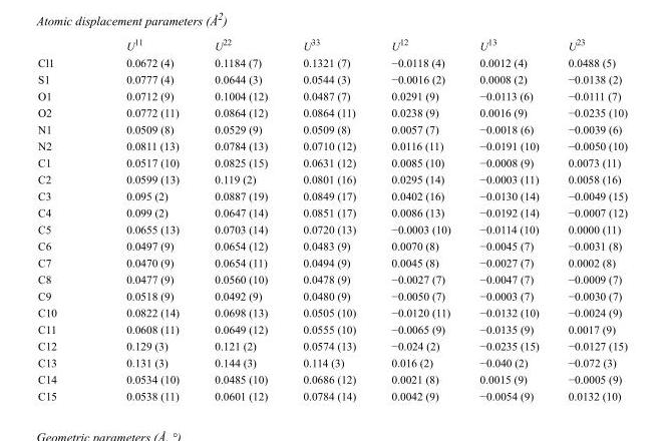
<table><thead><tr><td></td><td>U<sup>11</sup></td><td>U<sup>22</sup></td><td>U<sup>33</sup></td><td>U<sup>12</sup></td><td>U<sup>13</sup></td><td>U<sup>23</sup></td></tr></thead><tbody><tr><td>Cl1</td><td>0.0672 (4)</td><td>0.1184 (7)</td><td>0.1321 (7)</td><td>−0.0118 (4)</td><td>0.0012 (4)</td><td>0.0488 (5)</td></tr><tr><td>S1</td><td>0.0777 (4)</td><td>0.0644 (3)</td><td>0.0544 (3)</td><td>−0.0016 (2)</td><td>0.0008 (2)</td><td>−0.0138 (2)</td></tr><tr><td>O1</td><td>0.0712 (9)</td><td>0.1004 (12)</td><td>0.0487 (7)</td><td>0.0291 (9)</td><td>−0.0113 (6)</td><td>−0.0111 (7)</td></tr><tr><td>O2</td><td>0.0772 (11)</td><td>0.0864 (12)</td><td>0.0864 (11)</td><td>0.0238 (9)</td><td>0.0016 (9)</td><td>−0.0235 (10)</td></tr><tr><td>N1</td><td>0.0509 (8)</td><td>0.0529 (9)</td><td>0.0509 (8)</td><td>0.0057 (7)</td><td>−0.0018 (6)</td><td>−0.0039 (6)</td></tr><tr><td>N2</td><td>0.0811 (13)</td><td>0.0784 (13)</td><td>0.0710 (12)</td><td>0.0116 (11)</td><td>−0.0191 (10)</td><td>−0.0050 (10)</td></tr><tr><td>C1</td><td>0.0517 (10)</td><td>0.0825 (15)</td><td>0.0631 (12)</td><td>0.0085 (10)</td><td>−0.0008 (9)</td><td>0.0073 (11)</td></tr><tr><td>C2</td><td>0.0599 (13)</td><td>0.119 (2)</td><td>0.0801 (16)</td><td>0.0295 (14)</td><td>−0.0003 (11)</td><td>0.0058 (16)</td></tr><tr><td>C3</td><td>0.095 (2)</td><td>0.0887 (19)</td><td>0.0849 (17)</td><td>0.0402 (16)</td><td>−0.0130 (14)</td><td>−0.0049 (15)</td></tr><tr><td>C4</td><td>0.099 (2)</td><td>0.0647 (14)</td><td>0.0851 (17)</td><td>0.0086 (13)</td><td>−0.0192 (14)</td><td>−0.0007 (12)</td></tr><tr><td>C5</td><td>0.0655 (13)</td><td>0.0703 (14)</td><td>0.0720 (13)</td><td>−0.0003 (10)</td><td>−0.0114 (10)</td><td>0.0000 (11)</td></tr><tr><td>C6</td><td>0.0497 (9)</td><td>0.0654 (12)</td><td>0.0483 (9)</td><td>0.0070 (8)</td><td>−0.0045 (7)</td><td>−0.0031 (8)</td></tr><tr><td>C7</td><td>0.0470 (9)</td><td>0.0654 (11)</td><td>0.0494 (9)</td><td>0.0045 (8)</td><td>−0.0027 (7)</td><td>0.0002 (8)</td></tr><tr><td>C8</td><td>0.0477 (9)</td><td>0.0560 (10)</td><td>0.0478 (9)</td><td>−0.0027 (7)</td><td>−0.0047 (7)</td><td>−0.0009 (7)</td></tr><tr><td>C9</td><td>0.0518 (9)</td><td>0.0492 (9)</td><td>0.0480 (9)</td><td>−0.0050 (7)</td><td>−0.0003 (7)</td><td>−0.0030 (7)</td></tr><tr><td>C10</td><td>0.0822 (14)</td><td>0.0698 (13)</td><td>0.0505 (10)</td><td>−0.0120 (11)</td><td>−0.0132 (10)</td><td>−0.0024 (9)</td></tr><tr><td>C11</td><td>0.0608 (11)</td><td>0.0649 (12)</td><td>0.0555 (10)</td><td>−0.0065 (9)</td><td>−0.0135 (9)</td><td>0.0017 (9)</td></tr><tr><td>C12</td><td>0.129 (3)</td><td>0.121 (2)</td><td>0.0574 (13)</td><td>−0.024 (2)</td><td>−0.0235 (15)</td><td>−0.0127 (15)</td></tr><tr><td>C13</td><td>0.131 (3)</td><td>0.144 (3)</td><td>0.114 (3)</td><td>0.016 (2)</td><td>−0.040 (2)</td><td>−0.072 (3)</td></tr><tr><td>C14</td><td>0.0534 (10)</td><td>0.0485 (10)</td><td>0.0686 (12)</td><td>0.0021 (8)</td><td>0.0015 (9)</td><td>−0.0005 (9)</td></tr><tr><td>C15</td><td>0.0538 (11)</td><td>0.0601 (12)</td><td>0.0784 (14)</td><td>0.0042 (9)</td><td>−0.0054 (9)</td><td>0.0132 (10)</td></tr></tbody></table>